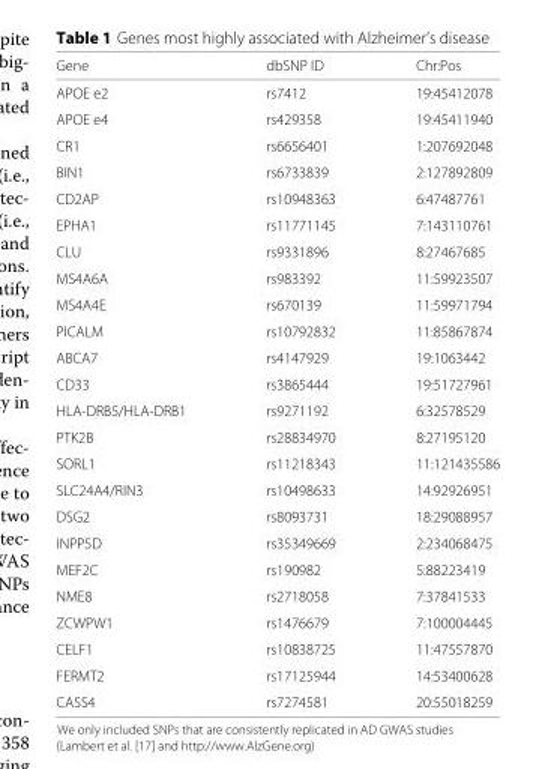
<table><thead><tr><td>Gene</td><td>dbSNP ID</td><td>Chr:Pos</td></tr></thead><tbody><tr><td>APOE e2</td><td>rs7412</td><td>19:45412078</td></tr><tr><td>APOE e4</td><td>rs429358</td><td>19:45411940</td></tr><tr><td>CR1</td><td>rs6656401</td><td>1:207692048</td></tr><tr><td>BIN1</td><td>rs6733839</td><td>2:127892809</td></tr><tr><td>CD2AP</td><td>rs10948363</td><td>6:47487761</td></tr><tr><td>EPHA1</td><td>rs11771145</td><td>7:143110761</td></tr><tr><td>CLU</td><td>rs9331896</td><td>8:27467685</td></tr><tr><td>MS4A6A</td><td>rs983392</td><td>11:59923507</td></tr><tr><td>MS4A4E</td><td>rs670139</td><td>11:59971794</td></tr><tr><td>PICALM</td><td>rs10792832</td><td>11:85867874</td></tr><tr><td>ABCA7</td><td>rs4147929</td><td>19:1063442</td></tr><tr><td>CD33</td><td>rs3865444</td><td>19:51727961</td></tr><tr><td>HLA-DRB5/HLA-DRB1</td><td>rs9271192</td><td>6:32578529</td></tr><tr><td>PTK2B</td><td>rs28834970</td><td>8:27195120</td></tr><tr><td>SORL1</td><td>rs11218343</td><td>11:121435586</td></tr><tr><td>SLC24A4/RIN3</td><td>rs10498633</td><td>14:92926951</td></tr><tr><td>DSG2</td><td>rs8093731</td><td>18:29088957</td></tr><tr><td>INPP5D</td><td>rs35349669</td><td>2:234068475</td></tr><tr><td>MEF2C</td><td>rs190982</td><td>5:88223419</td></tr><tr><td>NME8</td><td>rs2718058</td><td>7:37841533</td></tr><tr><td>ZCWPW1</td><td>rs1476679</td><td>7:100004445</td></tr><tr><td>CELF1</td><td>rs10838725</td><td>11:47557870</td></tr><tr><td>FERMT2</td><td>rs17125944</td><td>14:53400628</td></tr><tr><td>CASS4</td><td>rs7274581</td><td>20:55018259</td></tr></tbody></table>